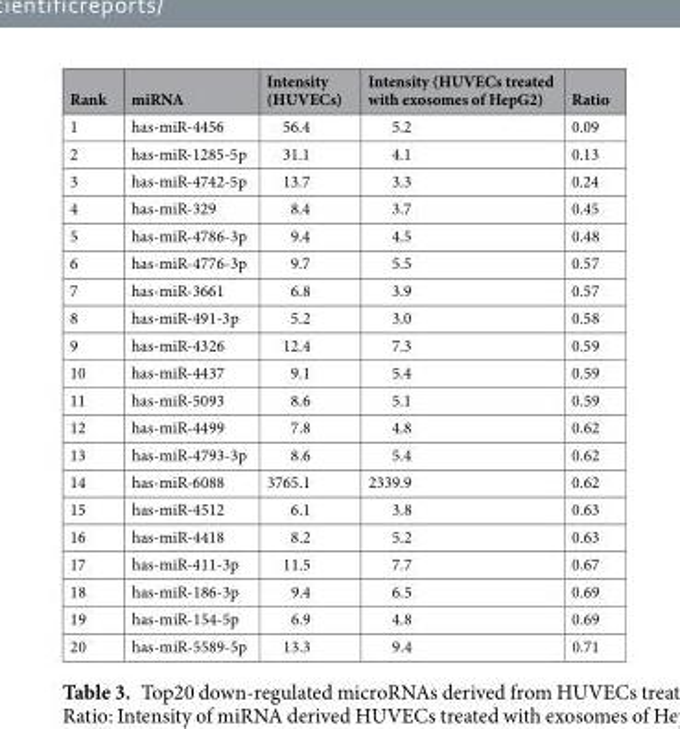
<table><thead><tr><td>Rank</td><td>miRNA</td><td>Intensity (HUVECs)</td><td>Intensity (HUVECs treated with exosomes of HepG2)</td><td>Ratio</td></tr></thead><tbody><tr><td>1</td><td>has-miR-4456</td><td>56.4</td><td>5.2</td><td>0.09</td></tr><tr><td>2</td><td>has-miR-1285-5p</td><td>31.1</td><td>4.1</td><td>0.13</td></tr><tr><td>3</td><td>has-miR-4742-5p</td><td>13.7</td><td>3.3</td><td>0.24</td></tr><tr><td>4</td><td>has-miR-329</td><td>8.4</td><td>3.7</td><td>0.45</td></tr><tr><td>5</td><td>has-miR-4786-3p</td><td>9.4</td><td>4.5</td><td>0.48</td></tr><tr><td>6</td><td>has-miR-4776-3p</td><td>9.7</td><td>5.5</td><td>0.57</td></tr><tr><td>7</td><td>has-miR-3661</td><td>6.8</td><td>3.9</td><td>0.57</td></tr><tr><td>8</td><td>has-miR-491-3p</td><td>5.2</td><td>3.0</td><td>0.58</td></tr><tr><td>9</td><td>has-miR-4326</td><td>12.4</td><td>7.3</td><td>0.59</td></tr><tr><td>10</td><td>has-miR-4437</td><td>9.1</td><td>5.4</td><td>0.59</td></tr><tr><td>11</td><td>has-miR-5093</td><td>8.6</td><td>5.1</td><td>0.59</td></tr><tr><td>12</td><td>has-miR-4499</td><td>7.8</td><td>4.8</td><td>0.62</td></tr><tr><td>13</td><td>has-miR-4793-3p</td><td>8.6</td><td>5.4</td><td>0.62</td></tr><tr><td>14</td><td>has-miR-6088</td><td>3765.1</td><td>2339.9</td><td>0.62</td></tr><tr><td>15</td><td>has-miR-4512</td><td>6.1</td><td>3.8</td><td>0.63</td></tr><tr><td>16</td><td>has-miR-4418</td><td>8.2</td><td>5.2</td><td>0.63</td></tr><tr><td>17</td><td>has-miR-411-3p</td><td>11.5</td><td>7.7</td><td>0.67</td></tr><tr><td>18</td><td>has-miR-186-3p</td><td>9.4</td><td>6.5</td><td>0.69</td></tr><tr><td>19</td><td>has-miR-154-5p</td><td>6.9</td><td>4.8</td><td>0.69</td></tr><tr><td>20</td><td>has-miR-5589-5p</td><td>13.3</td><td>9.4</td><td>0.71</td></tr></tbody></table>